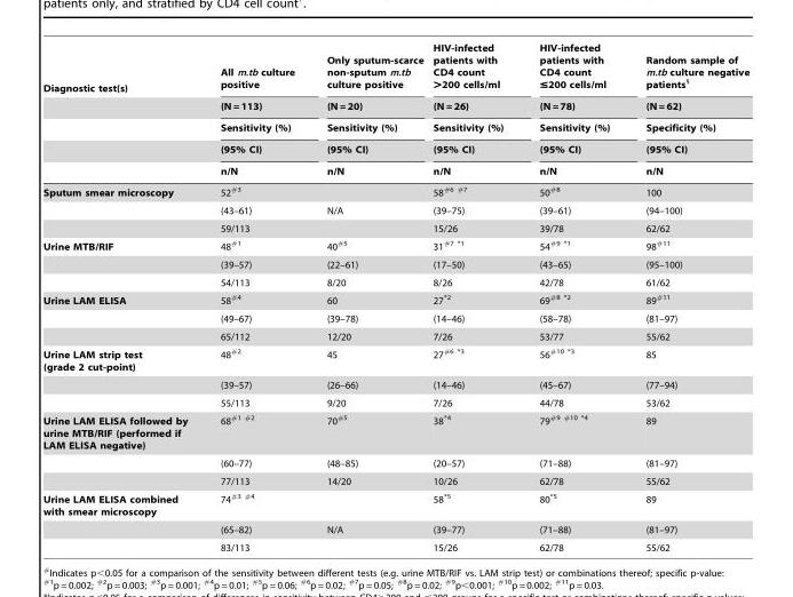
<table><thead><tr><td rowspan="5">Diagnostic test(s)</td><td rowspan="5">All m.tb culture positive (N = 113) Sensitivity (%) (95% CI) n/N</td><td rowspan="5">Only sputum-scarce non-sputum m.tb culture positive (N = 20) Sensitivity (%) (95% CI) n/N</td><td rowspan="5">HIV-infected patients with CD4 count &gt;200 cells/ml (N = 26) Sensitivity (%) (95% CI) n/N</td><td rowspan="5">HIV-infected patients with CD4 count ≤200 cells/ml (N = 78) Sensitivity (%) (95% CI) n/N</td><td rowspan="5">Random sample of m.tb culture negative patients§ (N = 62) Specificity (%) (95% CI) n/N</td></tr><tr></tr><tr></tr><tr></tr><tr></tr></thead><tbody><tr><td rowspan="3">Sputum smear microscopy</td><td>52<sup>#3</sup></td><td></td><td>58<sup>#6 #7</sup></td><td>50<sup>#8</sup></td><td>100</td></tr><tr><td>(43–61)</td><td>N/A</td><td>(39–75)</td><td>(39–61)</td><td>(94–100)</td></tr><tr><td>59/113</td><td></td><td>15/26</td><td>39/78</td><td>62/62</td></tr><tr><td rowspan="3">Urine MTB/RIF</td><td>48<sup>#1</sup></td><td>40<sup>#5</sup></td><td>31<sup>#7</sup> *<sup>1</sup></td><td>54<sup>#9</sup> *<sup>1</sup></td><td>98<sup>#11</sup></td></tr><tr><td>(39–57)</td><td>(22–61)</td><td>(17–50)</td><td>(43–65)</td><td>(95–100)</td></tr><tr><td>54/113</td><td>8/20</td><td>8/26</td><td>42/78</td><td>61/62</td></tr><tr><td rowspan="3">Urine LAM ELISA</td><td>58<sup>#4</sup></td><td>60</td><td>27*<sup>2</sup></td><td>69<sup>#8</sup> *<sup>2</sup></td><td>89<sup>#11</sup></td></tr><tr><td>(49–67)</td><td>(39–78)</td><td>(14–46)</td><td>(58–78)</td><td>(81–97)</td></tr><tr><td>65/112</td><td>12/20</td><td>7/26</td><td>53/77</td><td>55/62</td></tr><tr><td rowspan="3">Urine LAM strip test (grade 2 cut-point)</td><td>48<sup>#2</sup></td><td>45</td><td>27<sup>#6</sup> *<sup>3</sup></td><td>56<sup>#10</sup> *<sup>3</sup></td><td>85</td></tr><tr><td>(39–57)</td><td>(26–66)</td><td>(14–46)</td><td>(45–67)</td><td>(77–94)</td></tr><tr><td>55/113</td><td>9/20</td><td>7/26</td><td>44/78</td><td>53/62</td></tr><tr><td rowspan="3">Urine LAM ELISA followed by urine MTB/RIF (performed if LAM ELISA negative)</td><td>68<sup>#1 #2</sup></td><td>70<sup>#5</sup></td><td>38*<sup>4</sup></td><td>79<sup>#9 #10</sup> *<sup>4</sup></td><td>89</td></tr><tr><td>(60–77)</td><td>(48–85)</td><td>(20–57)</td><td>(71–88)</td><td>(81–97)</td></tr><tr><td>77/113</td><td>14/20</td><td>10/26</td><td>62/78</td><td>55/62</td></tr><tr><td rowspan="3">Urine LAM ELISA combined with smear microscopy</td><td>74<sup>#3 #4</sup></td><td></td><td>58*<sup>5</sup></td><td>80*<sup>5</sup></td><td>89</td></tr><tr><td>(65–82)</td><td>N/A</td><td>(39–77)</td><td>(71–88)</td><td>(81–97)</td></tr><tr><td>83/113</td><td></td><td>15/26</td><td>62/78</td><td>55/62</td></tr></tbody></table>